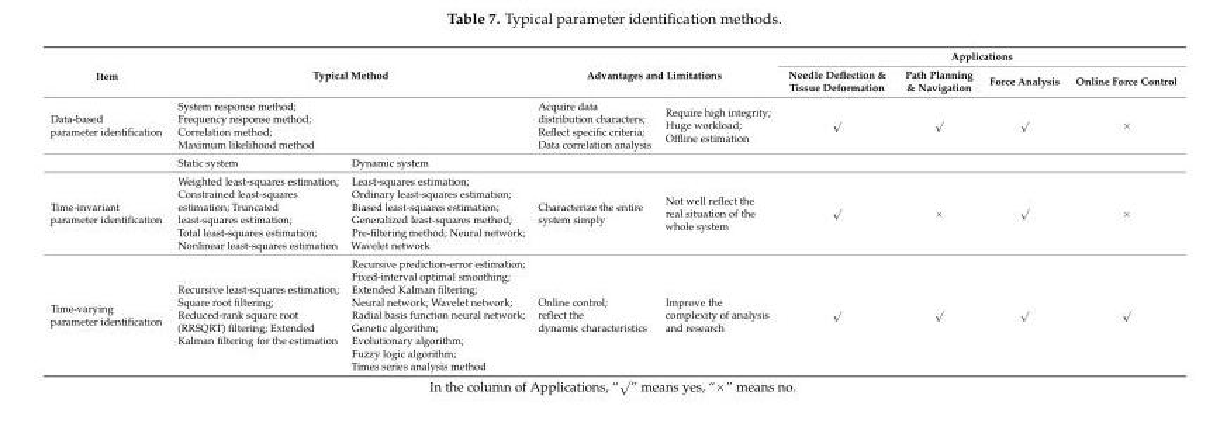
<table><thead><tr><td rowspan="4">Item Data-based parameter identification</td><td rowspan="3" colspan="2">Typical Method System response method; Frequency response method; Correlation method; Maximum likelihood method</td><td rowspan="2" colspan="2">Advantages and Limitations</td><td colspan="4">Applications</td></tr><tr><td rowspan="2">Needle Deflection &amp; Tissue Deformation √</td><td rowspan="2">Path Planning &amp; Navigation √</td><td rowspan="2">Force Analysis √</td><td rowspan="2">Online Force Control ×</td></tr><tr><td>Acquire data distribution characters; Reflect specific criteria; Data correlation analysis</td><td>Require high integrity; Huge workload; Offline estimation</td></tr><tr><td>Static system</td><td>Dynamic system</td><td colspan="6"></td></tr></thead><tbody><tr><td>Time-invariant parameter identification</td><td>Weighted least-squares estimation; Constrained least-squares estimation; Truncated least-squares estimation; Total least-squares estimation; Nonlinear least-squares estimation</td><td>Least-squares estimation; Ordinary least-squares estimation; Biased least-squares estimation; Generalized least-squares method; Pre-filtering method; Neural network; Wavelet network</td><td>Characterize the entire system simply</td><td>Not well reflect the real situation of the whole system</td><td>√</td><td>×</td><td>√</td><td>×</td></tr><tr><td>Time-varying parameter identification</td><td>Recursive least-squares estimation; Square root filtering; Reduced-rank square root (RRSQRT) filtering; Extended Kalman filtering for the estimation</td><td>Recursive prediction-error estimation; Fixed-interval optimal smoothing; Extended Kalman filtering; Neural network; Wavelet network; Radial basis function neural network; Genetic algorithm; Evolutionary algorithm; Fuzzy logic algorithm; Times series analysis method</td><td>Online control; reflect the dynamic characteristics</td><td>Improve the complexity of analysis and research</td><td>√</td><td>√</td><td>√</td><td>√</td></tr></tbody></table>